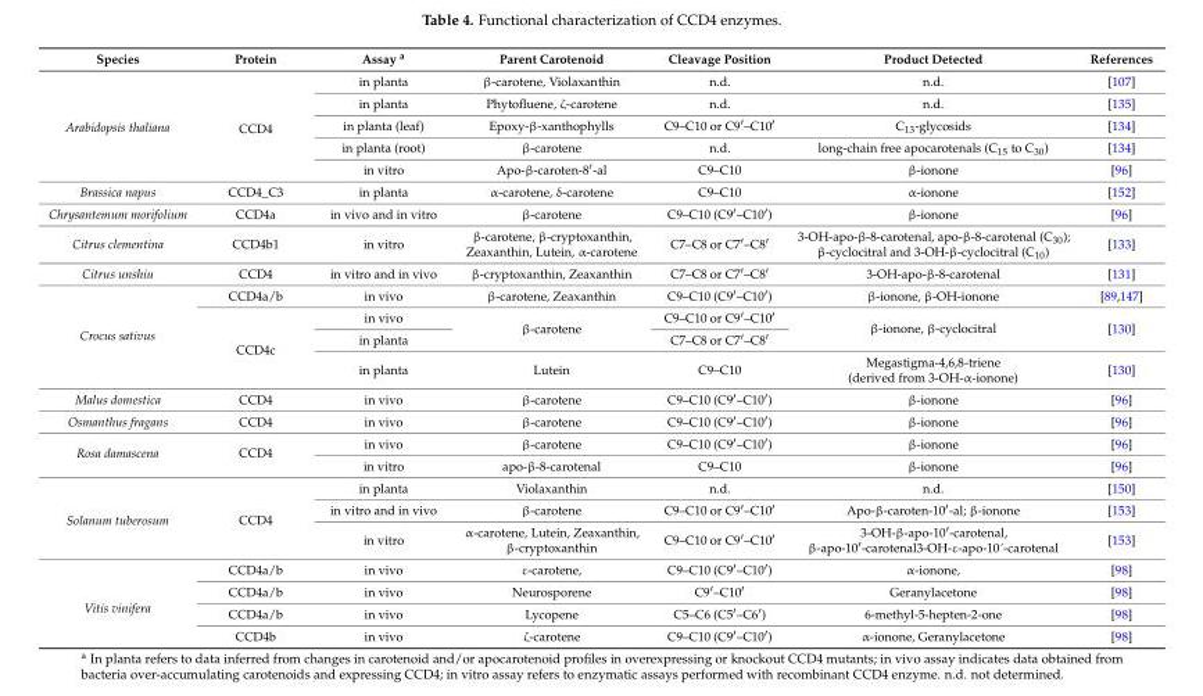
<table><thead><tr><td>Species</td><td>Protein</td><td>Assay <sup>a</sup></td><td>Parent Carotenoid</td><td>Cleavage Position</td><td>Product Detected</td><td>References</td></tr></thead><tbody><tr><td rowspan="5">Arabidopsis thaliana</td><td rowspan="5">CCD4</td><td>in planta</td><td>β-carotene, Violaxanthin</td><td>n.d.</td><td>n.d.</td><td>[107]</td></tr><tr><td>in planta</td><td>Phytofluene, ζ-carotene</td><td>n.d.</td><td>n.d.</td><td>[135]</td></tr><tr><td>in planta (leaf)</td><td>Epoxy-β-xanthophylls</td><td>C9–C10 or C9′–C10′</td><td>C<sub>13</sub>-glycosids</td><td>[134]</td></tr><tr><td>in planta (root)</td><td>β-carotene</td><td>n.d.</td><td>long-chain free apocarotenals (C<sub>15</sub> to C<sub>30</sub>)</td><td>[134]</td></tr><tr><td>in vitro</td><td>Apo-β-caroten-8′-al</td><td>C9–C10</td><td>β-ionone</td><td>[96]</td></tr><tr><td>Brassica napus</td><td>CCD4_C3</td><td>in planta</td><td>α-carotene, δ-carotene</td><td>C9–C10</td><td>α-ionone</td><td>[152]</td></tr><tr><td>Chrysantemum morifolium</td><td>CCD4a</td><td>in vivo and in vitro</td><td>β-carotene</td><td>C9–C10 (C9′–C10′)</td><td>β-ionone</td><td>[96]</td></tr><tr><td>Citrus clementina</td><td>CCD4b1</td><td>in vitro</td><td>β-carotene, β-cryptoxanthin, Zeaxanthin, Lutein, α-carotene</td><td>C7–C8 or C7′–C8′</td><td>3-OH-apo-β-8-carotenal, apo-β-8-carotenal (C<sub>30</sub>); β-cyclocitral and 3-OH-β-cyclocitral (C<sub>10</sub>)</td><td>[133]</td></tr><tr><td>Citrus unshiu</td><td>CCD4</td><td>in vitro and in vivo</td><td>β-cryptoxanthin, Zeaxanthin</td><td>C7–C8 or C7′–C8′</td><td>3-OH-apo-β-8-carotenal</td><td>[131]</td></tr><tr><td rowspan="4">Crocus sativus</td><td>CCD4a/b</td><td>in vivo</td><td>β-carotene, Zeaxanthin</td><td>C9–C10 (C9′–C10′)</td><td>β-ionone, β-OH-ionone</td><td>[89,147]</td></tr><tr><td rowspan="3">CCD4c</td><td>in vivo</td><td rowspan="2">β-carotene</td><td>C9–C10 or C9′–C10′</td><td rowspan="2">β-ionone, β-cyclocitral</td><td rowspan="2">[130]</td></tr><tr><td>in planta</td><td>C7–C8 or C7′–C8′</td></tr><tr><td>in planta</td><td>Lutein</td><td>C9–C10</td><td>Megastigma-4,6,8-triene (derived from 3-OH-α-ionone)</td><td>[130]</td></tr><tr><td>Malus domestica</td><td>CCD4</td><td>in vivo</td><td>β-carotene</td><td>C9–C10 (C9′–C10′)</td><td>β-ionone</td><td>[96]</td></tr><tr><td>Osmanthus fragans</td><td>CCD4</td><td>in vivo</td><td>β-carotene</td><td>C9–C10 (C9′–C10′)</td><td>β-ionone</td><td>[96]</td></tr><tr><td rowspan="2">Rosa damascena</td><td rowspan="2">CCD4</td><td>in vivo</td><td>β-carotene</td><td>C9–C10 (C9′–C10′)</td><td>β-ionone</td><td>[96]</td></tr><tr><td>in vitro</td><td>apo-β-8-carotenal</td><td>C9–C10</td><td>β-ionone</td><td>[96]</td></tr><tr><td rowspan="3">Solanum tuberosum</td><td rowspan="3">CCD4</td><td>in planta</td><td>Violaxanthin</td><td>n.d.</td><td>n.d.</td><td>[150]</td></tr><tr><td>in vitro and in vivo</td><td>β-carotene</td><td>C9–C10 or C9′–C10′</td><td>Apo-β-caroten-10′-al; β-ionone</td><td>[153]</td></tr><tr><td>in vitro</td><td>α-carotene, Lutein, Zeaxanthin, β-cryptoxanthin</td><td>C9–C10 or C9′–C10′</td><td>3-OH-β-apo-10′-carotenal, β-apo-10′-carotenal3-OH-ε-apo-10´-carotenal</td><td>[153]</td></tr><tr><td rowspan="4">Vitis vinifera</td><td>CCD4a/b</td><td>in vivo</td><td>ε-carotene,</td><td>C9–C10 (C9′–C10′)</td><td>α-ionone,</td><td>[98]</td></tr><tr><td>CCD4a/b</td><td>in vivo</td><td>Neurosporene</td><td>C9′–C10′</td><td>Geranylacetone</td><td>[98]</td></tr><tr><td>CCD4a/b</td><td>in vivo</td><td>Lycopene</td><td>C5–C6 (C5′–C6′)</td><td>6-methyl-5-hepten-2-one</td><td>[98]</td></tr><tr><td>CCD4b</td><td>in vivo</td><td>ζ-carotene</td><td>C9–C10 (C9′–C10′)</td><td>α-ionone, Geranylacetone</td><td>[98]</td></tr></tbody></table>